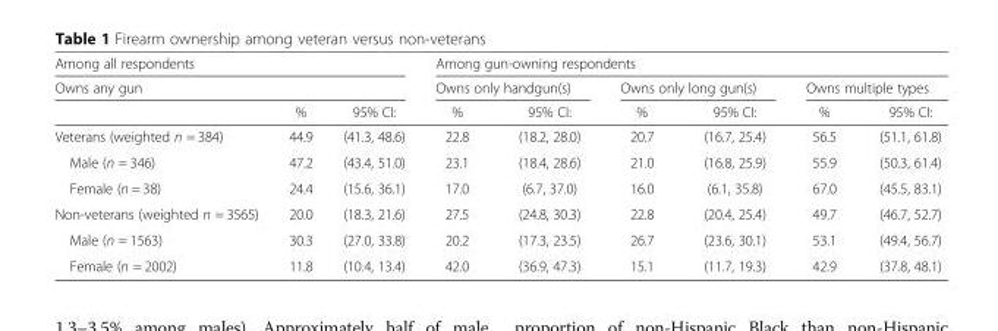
<table><thead><tr><td rowspan="2" colspan="3">Among all respondents Owns any gun</td><td colspan="6">Among gun-owning respondents</td></tr><tr><td colspan="2">Owns only handgun(s)</td><td colspan="2">Owns only long gun(s)</td><td colspan="2">Owns multiple types</td></tr><tr><td></td><td>%</td><td>95% CI:</td><td>%</td><td>95% CI:</td><td>%</td><td>95% CI:</td><td>%</td><td>95% CI:</td></tr></thead><tbody><tr><td>Veterans (weighted n = 384)</td><td>44.9</td><td>(41.3, 48.6)</td><td>22.8</td><td>(18.2, 28.0)</td><td>20.7</td><td>(16.7, 25.4)</td><td>56.5</td><td>(51.1, 61.8)</td></tr><tr><td>Male (n = 346)</td><td>47.2</td><td>(43.4, 51.0)</td><td>23.1</td><td>(18.4, 28.6)</td><td>21.0</td><td>(16.8, 25.9)</td><td>55.9</td><td>(50.3, 61.4)</td></tr><tr><td>Female (n = 38)</td><td>24.4</td><td>(15.6, 36.1)</td><td>17.0</td><td>(6.7, 37.0)</td><td>16.0</td><td>(6.1, 35.8)</td><td>67.0</td><td>(45.5, 83.1)</td></tr><tr><td>Non-veterans (weighted n = 3565)</td><td>20.0</td><td>(18.3, 21.6)</td><td>27.5</td><td>(24.8, 30.3)</td><td>22.8</td><td>(20.4, 25.4)</td><td>49.7</td><td>(46.7, 52.7)</td></tr><tr><td>Male (n = 1563)</td><td>30.3</td><td>(27.0, 33.8)</td><td>20.2</td><td>(17.3, 23.5)</td><td>26.7</td><td>(23.6, 30.1)</td><td>53.1</td><td>(49.4, 56.7)</td></tr><tr><td>Female (n = 2002)</td><td>11.8</td><td>(10.4, 13.4)</td><td>42.0</td><td>(36.9, 47.3)</td><td>15.1</td><td>(11.7, 19.3)</td><td>42.9</td><td>(37.8, 48.1)</td></tr></tbody></table>